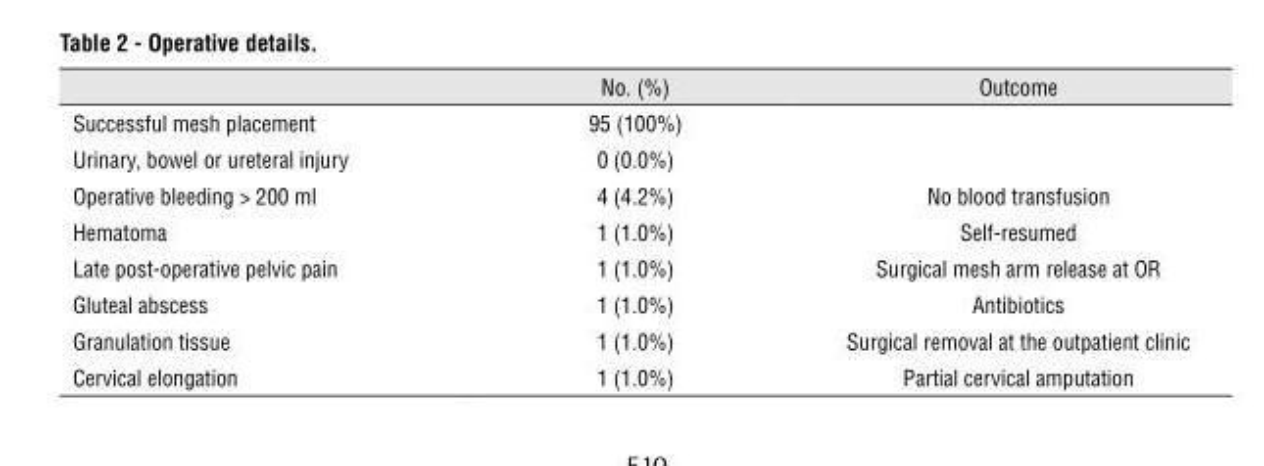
<table><thead><tr><td></td><td>No. (%)</td><td>Outcome</td></tr></thead><tbody><tr><td>Successful mesh placement</td><td>95 (100%)</td><td></td></tr><tr><td>Urinary, bowel or ureteral injury</td><td>0 (0.0%)</td><td></td></tr><tr><td>Operative bleeding &gt; 200 ml</td><td>4 (4.2%)</td><td>No blood transfusion</td></tr><tr><td>Hematoma</td><td>1 (1.0%)</td><td>Self-resumed</td></tr><tr><td>Late post-operative pelvic pain</td><td>1 (1.0%)</td><td>Surgical mesh arm release at OR</td></tr><tr><td>Gluteal abscess</td><td>1 (1.0%)</td><td>Antibiotics</td></tr><tr><td>Granulation tissue</td><td>1 (1.0%)</td><td>Surgical removal at the outpatient clinic</td></tr><tr><td>Cervical elongation</td><td>1 (1.0%)</td><td>Partial cervical amputation</td></tr></tbody></table>